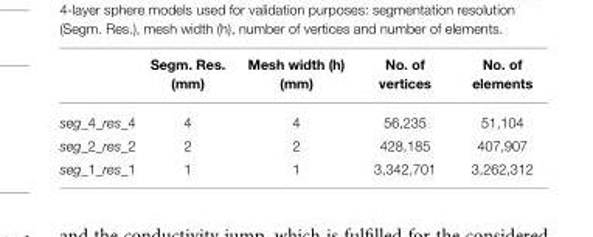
<table><thead><tr><td></td><td>Segm. Res. (mm)</td><td>Mesh width (h) (mm)</td><td>No. of vertices</td><td>No. of elements</td></tr></thead><tbody><tr><td>seg_4_res_4</td><td>4</td><td>4</td><td>56,235</td><td>51,104</td></tr><tr><td>seg_2_res_2</td><td>2</td><td>2</td><td>428,185</td><td>407,907</td></tr><tr><td>seg_1_res_1</td><td>1</td><td>1</td><td>3,342,701</td><td>3,262,312</td></tr></tbody></table>